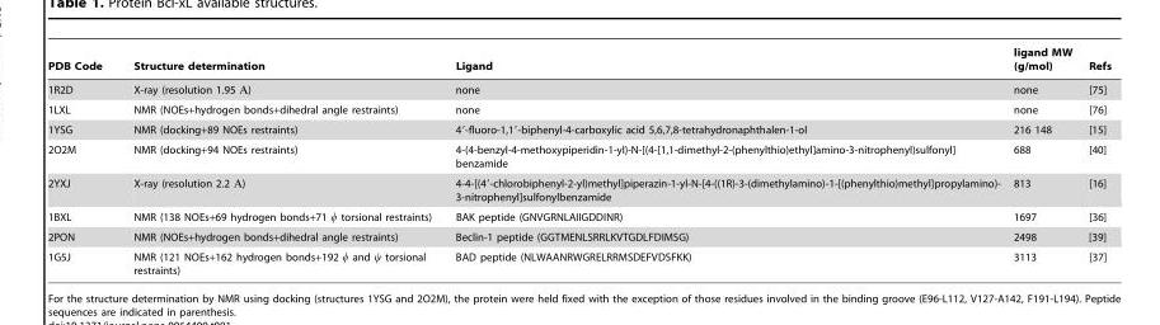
<table><thead><tr><td>PDB Code</td><td>Structure determination</td><td>Ligand</td><td>ligand MW (g/mol)</td><td>Refs</td></tr></thead><tbody><tr><td>1R2D</td><td>X-ray (resolution 1.95 A)</td><td>none</td><td>none</td><td>[75]</td></tr><tr><td>1LXL</td><td>NMR (NOEs+hydrogen bonds+dihedral angle restraints)</td><td>none</td><td>none</td><td>[76]</td></tr><tr><td>1YSG</td><td>NMR (docking+89 NOEs restraints)</td><td>4′-fluoro-1,1′-biphenyl-4-carboxylic acid 5,6,7,8-tetrahydronaphthalen-1-ol</td><td>216 148</td><td>[15]</td></tr><tr><td>2O2M</td><td>NMR (docking+94 NOEs restraints)</td><td>4-(4-benzyl-4-methoxypiperidin-1-yl)-N-[(4-[1,1-dimethyl-2-(phenylthio)ethyl]amino-3-nitrophenyl)sulfonyl] benzamide</td><td>688</td><td>[40]</td></tr><tr><td>2YXJ</td><td>X-ray (resolution 2.2 A)</td><td>4-4-[(4′-chlorobiphenyl-2-yl)methyl]piperazin-1-yl-N-[4-((1R)-3-(dimethylamino)-1-[(phenylthio)methyl]propylamino)- 3-nitrophenyl]sulfonylbenzamide</td><td>813</td><td>[16]</td></tr><tr><td>1BXL</td><td>NMR (138 NOEs+69 hydrogen bonds+71 w torsional restraints)</td><td>BAK peptide (GNVGRNLAIIGDDINR)</td><td>1697</td><td>[36]</td></tr><tr><td>2PON</td><td>NMR (NOEs+hydrogen bonds+dihedral angle restraints)</td><td>Beclin-1 peptide (GGTMENLSRRLKVTGDLFDIMSG)</td><td>2498</td><td>[39]</td></tr><tr><td>1G5J</td><td>NMR (121 NOEs+162 hydrogen bonds+192 w and y torsional restraints)</td><td>BAD peptide (NLWAANRWGRELRRMSDEFVDSFKK)</td><td>3113</td><td>[37]</td></tr></tbody></table>